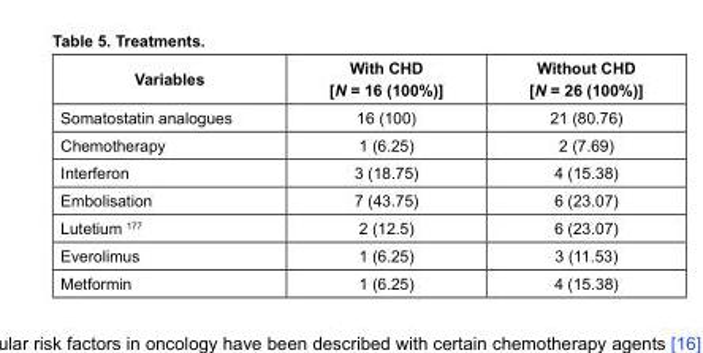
<table><thead><tr><td>Variables</td><td>With CHD [N = 16 (100%)]</td><td>Without CHD [N = 26 (100%)]</td></tr></thead><tbody><tr><td>Somatostatin analogues</td><td>16 (100)</td><td>21 (80.76)</td></tr><tr><td>Chemotherapy</td><td>1 (6.25)</td><td>2 (7.69)</td></tr><tr><td>Interferon</td><td>3 (18.75)</td><td>4 (15.38)</td></tr><tr><td>Embolisation</td><td>7 (43.75)</td><td>6 (23.07)</td></tr><tr><td>Lutetium <sup>177</sup></td><td>2 (12.5)</td><td>6 (23.07)</td></tr><tr><td>Everolimus</td><td>1 (6.25)</td><td>3 (11.53)</td></tr><tr><td>Metformin</td><td>1 (6.25)</td><td>4 (15.38)</td></tr></tbody></table>